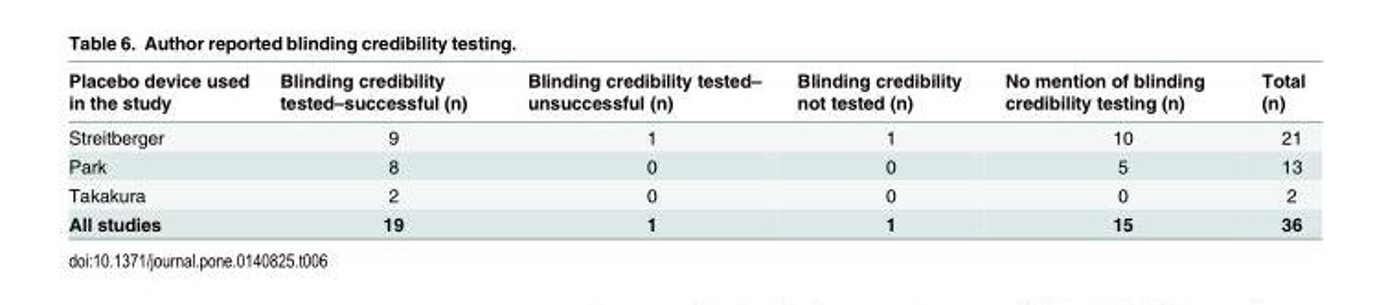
<table><thead><tr><td>Placebo device used in the study</td><td>Blinding credibility tested–successful (n)</td><td>Blinding credibility tested– unsuccessful (n)</td><td>Blinding credibility not tested (n)</td><td>No mention of blinding credibility testing (n)</td><td>Total (n)</td></tr></thead><tbody><tr><td>Streitberger</td><td>9</td><td>1</td><td>1</td><td>10</td><td>21</td></tr><tr><td>Park</td><td>8</td><td>0</td><td>0</td><td>5</td><td>13</td></tr><tr><td>Takakura</td><td>2</td><td>0</td><td>0</td><td>0</td><td>2</td></tr><tr><td>All studies</td><td>19</td><td>1</td><td>1</td><td>15</td><td>36</td></tr></tbody></table>